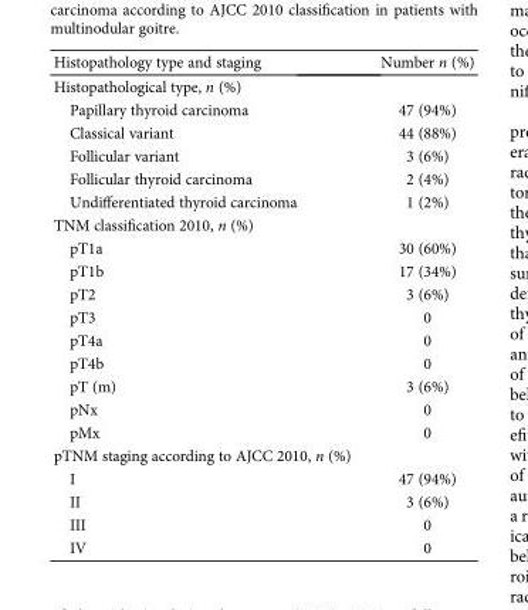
<table><thead><tr><td>Histopathology type and staging</td><td>Number n (%)</td></tr></thead><tbody><tr><td colspan="2">Histopathological type, n (%)</td></tr><tr><td>Papillary thyroid carcinoma</td><td>47 (94%)</td></tr><tr><td>Classical variant</td><td>44 (88%)</td></tr><tr><td>Follicular variant</td><td>3 (6%)</td></tr><tr><td>Follicular thyroid carcinoma</td><td>2 (4%)</td></tr><tr><td>Undifferentiated thyroid carcinoma</td><td>1 (2%)</td></tr><tr><td colspan="2">TNM classification 2010, n (%)</td></tr><tr><td>pT1a</td><td>30 (60%)</td></tr><tr><td>pT1b</td><td>17 (34%)</td></tr><tr><td>pT2</td><td>3 (6%)</td></tr><tr><td>pT3</td><td>0</td></tr><tr><td>pT4a</td><td>0</td></tr><tr><td>pT4b</td><td>0</td></tr><tr><td>pT (m)</td><td>3 (6%)</td></tr><tr><td>pNx</td><td>0</td></tr><tr><td>pMx</td><td>0</td></tr><tr><td colspan="2">pTNM staging according to AJCC 2010, n (%)</td></tr><tr><td>I</td><td>47 (94%)</td></tr><tr><td>II</td><td>3 (6%)</td></tr><tr><td>III</td><td>0</td></tr><tr><td>IV</td><td>0</td></tr></tbody></table>